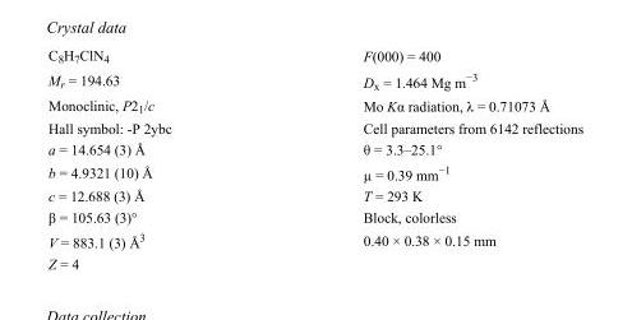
<table><tbody><tr><td>C<sub>8</sub>H<sub>7</sub>ClN<sub>4</sub></td><td>F(000) = 400</td></tr><tr><td>M<sub>r</sub> = 194.63</td><td>D<sub>x</sub> = 1.464 Mg m<sup>−3</sup></td></tr><tr><td>Monoclinic, P2<sub>1</sub>/c</td><td>Mo Kα radiation, λ = 0.71073 Å</td></tr><tr><td>Hall symbol: -P 2ybc</td><td>Cell parameters from 6142 reflections</td></tr><tr><td>a = 14.654 (3) Å</td><td>θ = 3.3–25.1°</td></tr><tr><td>b = 4.9321 (10) Å</td><td>µ = 0.39 mm<sup>−1</sup></td></tr><tr><td>c = 12.688 (3) Å</td><td>T = 293 K</td></tr><tr><td>β = 105.63 (3)°</td><td>Block, colorless</td></tr><tr><td>V = 883.1 (3) Å<sup>3</sup></td><td>0.40 × 0.38 × 0.15 mm</td></tr><tr><td>Z = 4</td><td></td></tr></tbody></table>